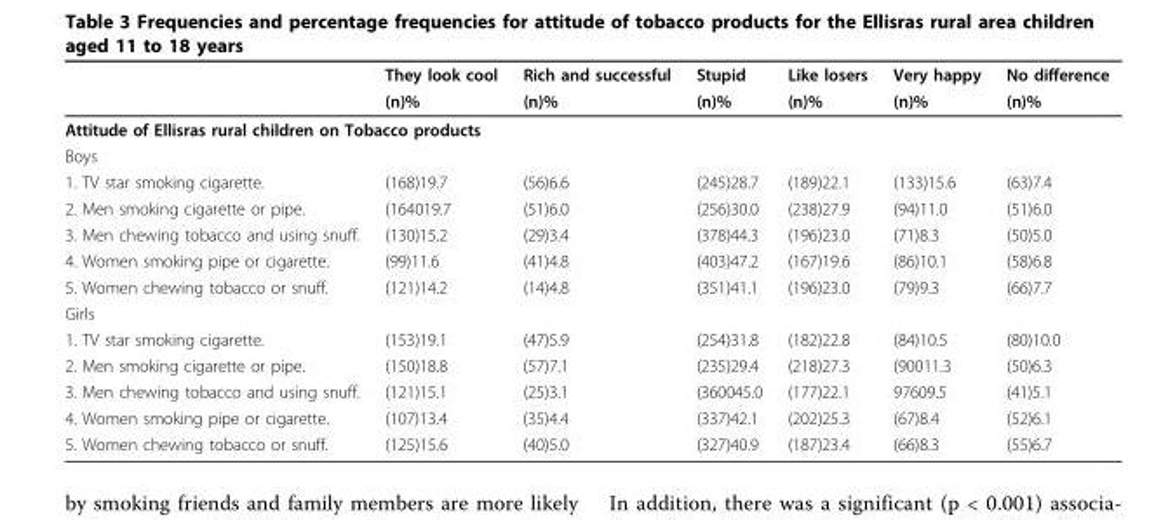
<table><thead><tr><td rowspan="2"></td><td rowspan="2">They look cool (n)%</td><td rowspan="2">Rich and successful (n)%</td><td rowspan="2">Stupid (n)%</td><td rowspan="2">Like losers (n)%</td><td rowspan="2">Very happy (n)%</td><td rowspan="2">No difference (n)%</td></tr><tr></tr></thead><tbody><tr><td colspan="7">Attitude of Ellisras rural children on Tobacco products</td></tr><tr><td colspan="7">Boys</td></tr><tr><td>1. TV star smoking cigarette.</td><td>(168)19.7</td><td>(56)6.6</td><td>(245)28.7</td><td>(189)22.1</td><td>(133)15.6</td><td>(63)7.4</td></tr><tr><td>2. Men smoking cigarette or pipe.</td><td>(164019.7</td><td>(51)6.0</td><td>(256)30.0</td><td>(238)27.9</td><td>(94)11.0</td><td>(51)6.0</td></tr><tr><td>3. Men chewing tobacco and using snuff.</td><td>(130)15.2</td><td>(29)3.4</td><td>(378)44.3</td><td>(196)23.0</td><td>(71)8.3</td><td>(50)5.0</td></tr><tr><td>4. Women smoking pipe or cigarette.</td><td>(99)11.6</td><td>(41)4.8</td><td>(403)47.2</td><td>(167)19.6</td><td>(86)10.1</td><td>(58)6.8</td></tr><tr><td>5. Women chewing tobacco or snuff.</td><td>(121)14.2</td><td>(14)4.8</td><td>(351)41.1</td><td>(196)23.0</td><td>(79)9.3</td><td>(66)7.7</td></tr><tr><td colspan="7">Girls</td></tr><tr><td>1. TV star smoking cigarette.</td><td>(153)19.1</td><td>(47)5.9</td><td>(254)31.8</td><td>(182)22.8</td><td>(84)10.5</td><td>(80)10.0</td></tr><tr><td>2. Men smoking cigarette or pipe.</td><td>(150)18.8</td><td>(57)7.1</td><td>(235)29.4</td><td>(218)27.3</td><td>(90011.3</td><td>(50)6.3</td></tr><tr><td>3. Men chewing tobacco and using snuff.</td><td>(121)15.1</td><td>(25)3.1</td><td>(360045.0</td><td>(177)22.1</td><td>97609.5</td><td>(41)5.1</td></tr><tr><td>4. Women smoking pipe or cigarette.</td><td>(107)13.4</td><td>(35)4.4</td><td>(337)42.1</td><td>(202)25.3</td><td>(67)8.4</td><td>(52)6.1</td></tr><tr><td>5. Women chewing tobacco or snuff.</td><td>(125)15.6</td><td>(40)5.0</td><td>(327)40.9</td><td>(187)23.4</td><td>(66)8.3</td><td>(55)6.7</td></tr></tbody></table>